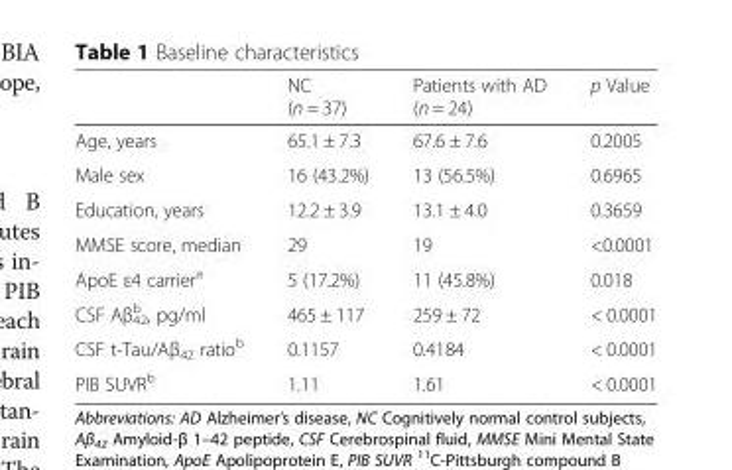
<table><thead><tr><td></td><td>NC (n = 37)</td><td>Patients with AD (n = 24)</td><td>p Value</td></tr></thead><tbody><tr><td>Age, years</td><td>65.1 ± 7.3</td><td>67.6 ± 7.6</td><td>0.2005</td></tr><tr><td>Male sex</td><td>16 (43.2%)</td><td>13 (56.5%)</td><td>0.6965</td></tr><tr><td>Education, years</td><td>12.2 ± 3.9</td><td>13.1 ± 4.0</td><td>0.3659</td></tr><tr><td>MMSE score, median</td><td>29</td><td>19</td><td>&lt;0.0001</td></tr><tr><td>ApoE ε4 carrier<sup>a</sup></td><td>5 (17.2%)</td><td>11 (45.8%)</td><td>0.018</td></tr><tr><td>CSF Aβ<sub>42</sub> <sup>b</sup> , pg/ml</td><td>465 ± 117</td><td>259 ± 72</td><td>&lt; 0.0001</td></tr><tr><td>CSF t-Tau/Aβ<sub>42</sub> ratio<sup>b</sup></td><td>0.1157</td><td>0.4184</td><td>&lt; 0.0001</td></tr><tr><td>PIB SUVR<sup>b</sup></td><td>1.11</td><td>1.61</td><td>&lt; 0.0001</td></tr></tbody></table>